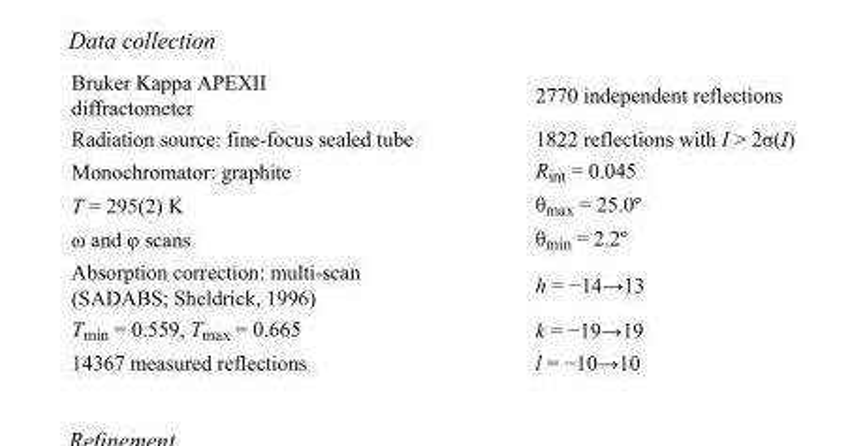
<table><tbody><tr><td>Bruker Kappa APEXII diffractometer</td><td>2770 independent reflections</td></tr><tr><td>Radiation source: fine-focus sealed tube</td><td>1822 reflections with I &gt; 2σ(I)</td></tr><tr><td>Monochromator: graphite</td><td>R<sub>int</sub> = 0.045</td></tr><tr><td>T = 295(2) K</td><td>θ<sub>max</sub> = 25.0º</td></tr><tr><td>ω and φ scans</td><td>θ<sub>min</sub> = 2.2º</td></tr><tr><td>Absorption correction: multi-scan (SADABS; Sheldrick, 1996)</td><td>h = −14→13</td></tr><tr><td>T<sub>min</sub> = 0.559, T<sub>max</sub> = 0.665</td><td>k = −19→19</td></tr><tr><td>14367 measured reflections</td><td>l = −10→10</td></tr></tbody></table>